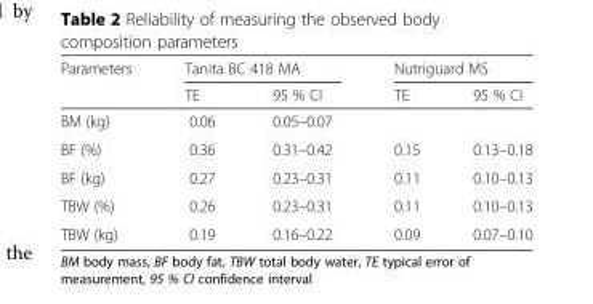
<table><thead><tr><td rowspan="2">Parameters</td><td colspan="2">Tanita BC 418 MA</td><td colspan="2">Nutriguard MS</td></tr><tr><td>TE</td><td>95 % CI</td><td>TE</td><td>95 % CI</td></tr></thead><tbody><tr><td>BM (kg)</td><td>0.06</td><td>0.05–0.07</td><td></td><td></td></tr><tr><td>BF (%)</td><td>0.36</td><td>0.31–0.42</td><td>0.15</td><td>0.13–0.18</td></tr><tr><td>BF (kg)</td><td>0.27</td><td>0.23–0.31</td><td>0.11</td><td>0.10–0.13</td></tr><tr><td>TBW (%)</td><td>0.26</td><td>0.23–0.31</td><td>0.11</td><td>0.10–0.13</td></tr><tr><td>TBW (kg)</td><td>0.19</td><td>0.16–0.22</td><td>0.09</td><td>0.07–0.10</td></tr></tbody></table>